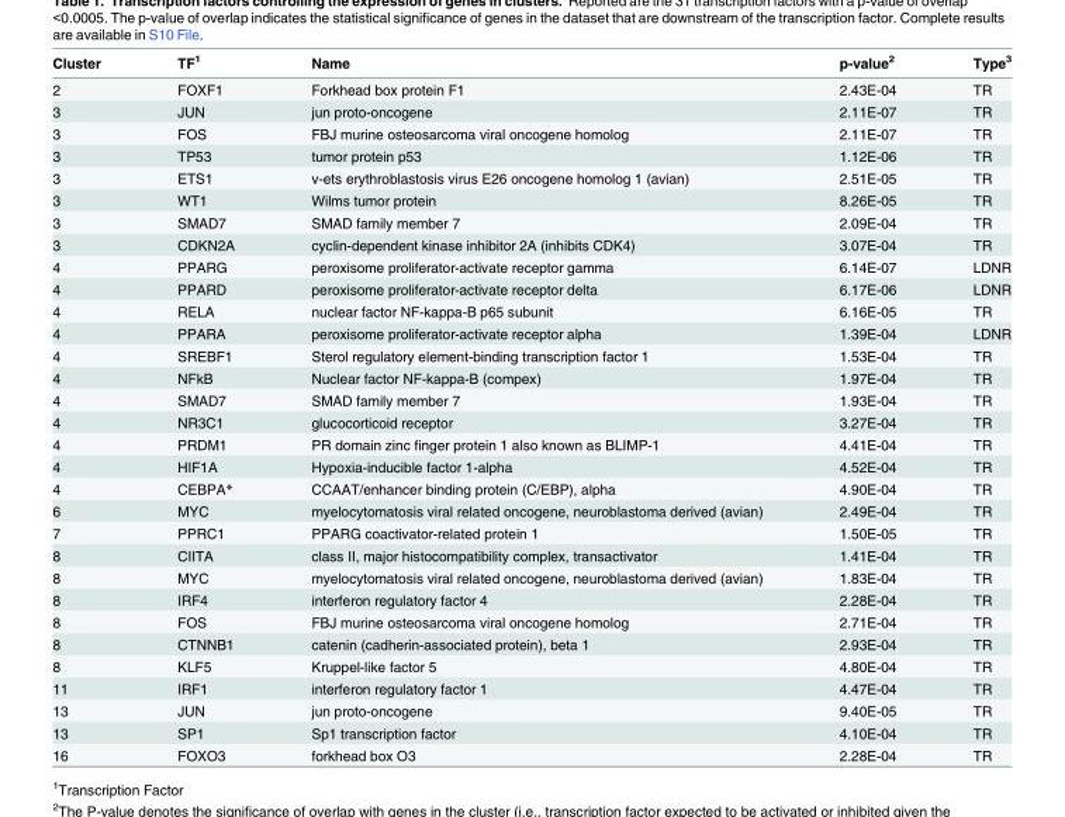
<table><thead><tr><td>Cluster</td><td>TF<sup>1</sup></td><td>Name</td><td>p-value<sup>2</sup></td><td>Type<sup>3</sup></td></tr></thead><tbody><tr><td>2</td><td>FOXF1</td><td>Forkhead box protein F1</td><td>2.43E-04</td><td>TR</td></tr><tr><td>3</td><td>JUN</td><td>jun proto-oncogene</td><td>2.11E-07</td><td>TR</td></tr><tr><td>3</td><td>FOS</td><td>FBJ murine osteosarcoma viral oncogene homolog</td><td>2.11E-07</td><td>TR</td></tr><tr><td>3</td><td>TP53</td><td>tumor protein p53</td><td>1.12E-06</td><td>TR</td></tr><tr><td>3</td><td>ETS1</td><td>v-ets erythroblastosis virus E26 oncogene homolog 1 (avian)</td><td>2.51E-05</td><td>TR</td></tr><tr><td>3</td><td>WT1</td><td>Wilms tumor protein</td><td>8.26E-05</td><td>TR</td></tr><tr><td>3</td><td>SMAD7</td><td>SMAD family member 7</td><td>2.09E-04</td><td>TR</td></tr><tr><td>3</td><td>CDKN2A</td><td>cyclin-dependent kinase inhibitor 2A (inhibits CDK4)</td><td>3.07E-04</td><td>TR</td></tr><tr><td>4</td><td>PPARG</td><td>peroxisome proliferator-activate receptor gamma</td><td>6.14E-07</td><td>LDNR</td></tr><tr><td>4</td><td>PPARD</td><td>peroxisome proliferator-activate receptor delta</td><td>6.17E-06</td><td>LDNR</td></tr><tr><td>4</td><td>RELA</td><td>nuclear factor NF-kappa-B p65 subunit</td><td>6.16E-05</td><td>TR</td></tr><tr><td>4</td><td>PPARA</td><td>peroxisome proliferator-activate receptor alpha</td><td>1.39E-04</td><td>LDNR</td></tr><tr><td>4</td><td>SREBF1</td><td>Sterol regulatory element-binding transcription factor 1</td><td>1.53E-04</td><td>TR</td></tr><tr><td>4</td><td>NFkB</td><td>Nuclear factor NF-kappa-B (compex)</td><td>1.97E-04</td><td>TR</td></tr><tr><td>4</td><td>SMAD7</td><td>SMAD family member 7</td><td>1.93E-04</td><td>TR</td></tr><tr><td>4</td><td>NR3C1</td><td>glucocorticoid receptor</td><td>3.27E-04</td><td>TR</td></tr><tr><td>4</td><td>PRDM1</td><td>PR domain zinc finger protein 1 also known as BLIMP-1</td><td>4.41E-04</td><td>TR</td></tr><tr><td>4</td><td>HIF1A</td><td>Hypoxia-inducible factor 1-alpha</td><td>4.52E-04</td><td>TR</td></tr><tr><td>4</td><td>CEBPA*</td><td>CCAAT/enhancer binding protein (C/EBP), alpha</td><td>4.90E-04</td><td>TR</td></tr><tr><td>6</td><td>MYC</td><td>myelocytomatosis viral related oncogene, neuroblastoma derived (avian)</td><td>2.49E-04</td><td>TR</td></tr><tr><td>7</td><td>PPRC1</td><td>PPARG coactivator-related protein 1</td><td>1.50E-05</td><td>TR</td></tr><tr><td>8</td><td>CIITA</td><td>class II, major histocompatibility complex, transactivator</td><td>1.41E-04</td><td>TR</td></tr><tr><td>8</td><td>MYC</td><td>myelocytomatosis viral related oncogene, neuroblastoma derived (avian)</td><td>1.83E-04</td><td>TR</td></tr><tr><td>8</td><td>IRF4</td><td>interferon regulatory factor 4</td><td>2.28E-04</td><td>TR</td></tr><tr><td>8</td><td>FOS</td><td>FBJ murine osteosarcoma viral oncogene homolog</td><td>2.71E-04</td><td>TR</td></tr><tr><td>8</td><td>CTNNB1</td><td>catenin (cadherin-associated protein), beta 1</td><td>2.93E-04</td><td>TR</td></tr><tr><td>8</td><td>KLF5</td><td>Kruppel-like factor 5</td><td>4.80E-04</td><td>TR</td></tr><tr><td>11</td><td>IRF1</td><td>interferon regulatory factor 1</td><td>4.47E-04</td><td>TR</td></tr><tr><td>13</td><td>JUN</td><td>jun proto-oncogene</td><td>9.40E-05</td><td>TR</td></tr><tr><td>13</td><td>SP1</td><td>Sp1 transcription factor</td><td>4.10E-04</td><td>TR</td></tr><tr><td>16</td><td>FOXO3</td><td>forkhead box O3</td><td>2.28E-04</td><td>TR</td></tr></tbody></table>